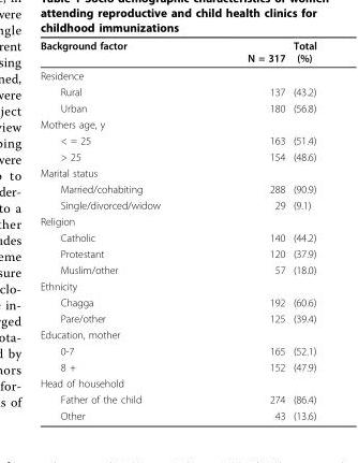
<table><thead><tr><td>Background factor</td><td>N = 317</td><td>Total (%)</td></tr></thead><tbody><tr><td colspan="3">Residence</td></tr><tr><td>Rural</td><td>137</td><td>(43.2)</td></tr><tr><td>Urban</td><td>180</td><td>(56.8)</td></tr><tr><td colspan="3">Mothers age, y</td></tr><tr><td>&lt; = 25</td><td>163</td><td>(51.4)</td></tr><tr><td>&gt; 25</td><td>154</td><td>(48.6)</td></tr><tr><td colspan="3">Marital status</td></tr><tr><td>Married/cohabiting</td><td>288</td><td>(90.9)</td></tr><tr><td>Single/divorced/widow</td><td>29</td><td>(9.1)</td></tr><tr><td colspan="3">Religion</td></tr><tr><td>Catholic</td><td>140</td><td>(44.2)</td></tr><tr><td>Protestant</td><td>120</td><td>(37.9)</td></tr><tr><td>Muslim/other</td><td>57</td><td>(18.0)</td></tr><tr><td colspan="3">Ethnicity</td></tr><tr><td>Chagga</td><td>192</td><td>(60.6)</td></tr><tr><td>Pare/other</td><td>125</td><td>(39.4)</td></tr><tr><td colspan="3">Education, mother</td></tr><tr><td>0-7</td><td>165</td><td>(52.1)</td></tr><tr><td>8 +</td><td>152</td><td>(47.9)</td></tr><tr><td colspan="3">Head of household</td></tr><tr><td>Father of the child</td><td>274</td><td>(86.4)</td></tr><tr><td>Other</td><td>43</td><td>(13.6)</td></tr></tbody></table>